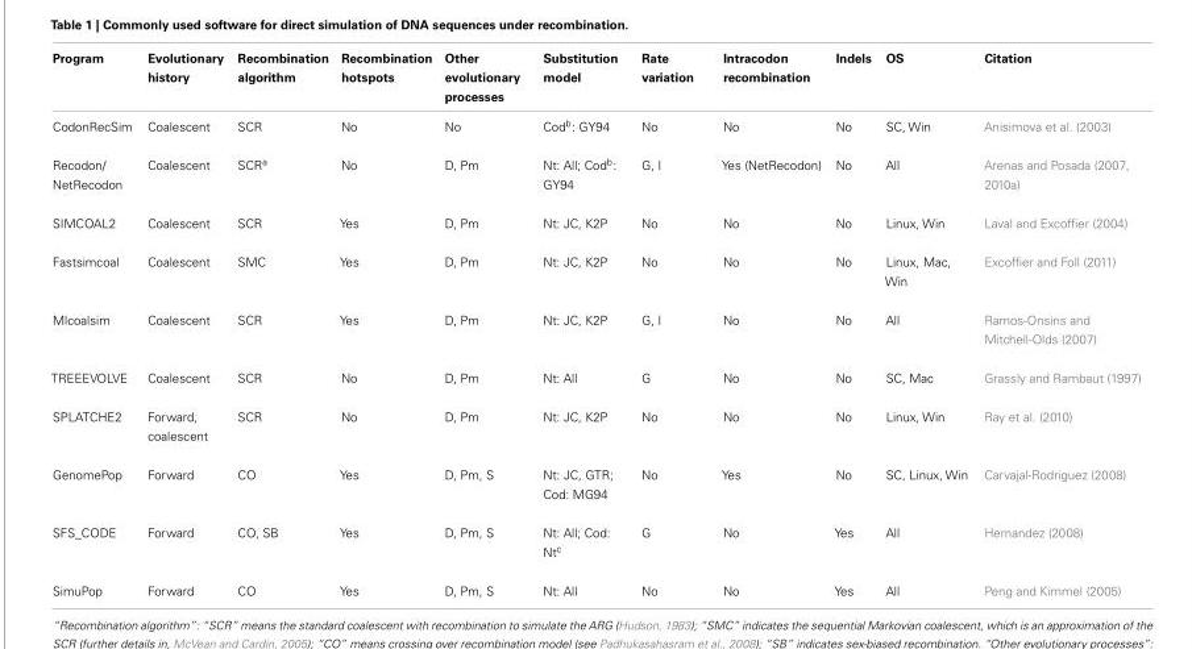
<table><thead><tr><td>Program</td><td>Evolutionary history</td><td>Recombination algorithm</td><td>Recombination hotspots</td><td>Other evolutionary processes</td><td>Substitution model</td><td>Rate variation</td><td>Intracodon recombination</td><td>Indels</td><td>OS</td><td>Citation</td></tr></thead><tbody><tr><td>CodonRecSim</td><td>Coalescent</td><td>SCR</td><td>No</td><td>No</td><td>Cod<sup>b</sup>: GY94</td><td>No</td><td>No</td><td>No</td><td>SC, Win</td><td>Anisimova et al. (2003)</td></tr><tr><td>Recodon/ NetRecodon</td><td>Coalescent</td><td>SCR<sup>a</sup></td><td>No</td><td>D, Pm</td><td>Nt: All; Cod<sup>b</sup>: GY94</td><td>G, I</td><td>Yes (NetRecodon)</td><td>No</td><td>All</td><td>Arenas and Posada (2007, 2010a)</td></tr><tr><td>SIMCOAL2</td><td>Coalescent</td><td>SCR</td><td>Yes</td><td>D, Pm</td><td>Nt: JC, K2P</td><td>No</td><td>No</td><td>No</td><td>Linux, Win</td><td>Laval and Excoffier (2004)</td></tr><tr><td>Fastsimcoal</td><td>Coalescent</td><td>SMC</td><td>Yes</td><td>D, Pm</td><td>Nt: JC, K2P</td><td>No</td><td>No</td><td>No</td><td>Linux, Mac, Win</td><td>Excoffier and Foll (2011)</td></tr><tr><td>Mlcoalsim</td><td>Coalescent</td><td>SCR</td><td>Yes</td><td>D, Pm</td><td>Nt: JC, K2P</td><td>G, I</td><td>No</td><td>No</td><td>All</td><td>Ramos-Onsins and Mitchell-Olds (2007)</td></tr><tr><td>TREEEVOLVE</td><td>Coalescent</td><td>SCR</td><td>No</td><td>D, Pm</td><td>Nt: All</td><td>G</td><td>No</td><td>No</td><td>SC, Mac</td><td>Grassly and Rambaut (1997)</td></tr><tr><td>SPLATCHE2</td><td>Forward, coalescent</td><td>SCR</td><td>No</td><td>D, Pm</td><td>Nt: JC, K2P</td><td>No</td><td>No</td><td>No</td><td>Linux, Win</td><td>Ray et al. (2010)</td></tr><tr><td>GenomePop</td><td>Forward</td><td>CO</td><td>Yes</td><td>D, Pm, S</td><td>Nt: JC, GTR; Cod: MG94</td><td>No</td><td>Yes</td><td>No</td><td>SC, Linux, Win</td><td>Carvajal-Rodriguez (2008)</td></tr><tr><td>SFS_CODE</td><td>Forward</td><td>CO, SB</td><td>Yes</td><td>D, Pm, S</td><td>Nt: All; Cod: Nt<sup>c</sup></td><td>G</td><td>No</td><td>Yes</td><td>All</td><td>Hernandez (2008)</td></tr><tr><td>SimuPop</td><td>Forward</td><td>CO</td><td>Yes</td><td>D, Pm, S</td><td>Nt: All</td><td>No</td><td>No</td><td>Yes</td><td>All</td><td>Peng and Kimmel (2005)</td></tr></tbody></table>